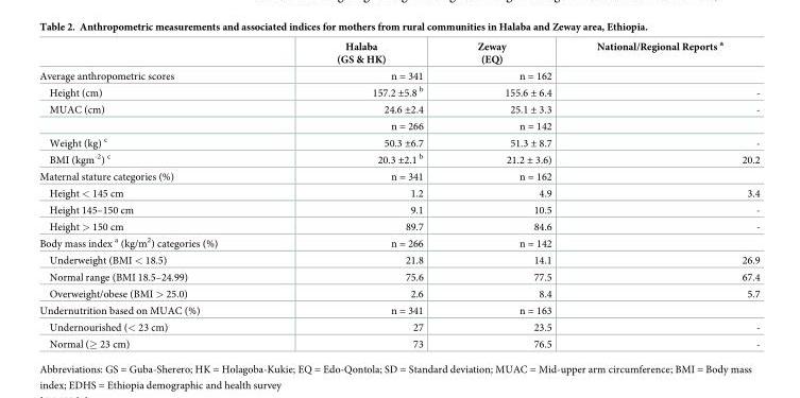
<table><thead><tr><td></td><td>Halaba (GS &amp; HK)</td><td>Zeway (EQ)</td><td>National/Regional Reports <sup>a</sup></td></tr></thead><tbody><tr><td>Average anthropometric scores</td><td>n = 341</td><td>n = 162</td><td></td></tr><tr><td>Height (cm)</td><td>157.2 ±5.8 <sup>b</sup></td><td>155.6 ± 6.4</td><td>-</td></tr><tr><td rowspan="2">MUAC (cm)</td><td>24.6 ±2.4</td><td>25.1 ± 3.3</td><td>-</td></tr><tr><td>n = 266</td><td>n = 142</td><td></td></tr><tr><td>Weight (kg) <sup>c</sup></td><td>50.3 ±6.7</td><td>51.3 ± 8.7</td><td>-</td></tr><tr><td>BMI (kgm<sup>-2</sup>) <sup>c</sup></td><td>20.3 ±2.1 <sup>b</sup></td><td>21.2 ± 3.6)</td><td>20.2</td></tr><tr><td>Maternal stature categories (%)</td><td>n = 341</td><td>n = 162</td><td></td></tr><tr><td>Height &lt; 145 cm</td><td>1.2</td><td>4.9</td><td>3.4</td></tr><tr><td>Height 145–150 cm</td><td>9.1</td><td>10.5</td><td>-</td></tr><tr><td>Height &gt; 150 cm</td><td>89.7</td><td>84.6</td><td>-</td></tr><tr><td>Body mass index <sup>a</sup> (kg/m<sup>2</sup>) categories (%)</td><td>n = 266</td><td>n = 142</td><td></td></tr><tr><td>Underweight (BMI &lt; 18.5)</td><td>21.8</td><td>14.1</td><td>26.9</td></tr><tr><td>Normal range (BMI 18.5–24.99)</td><td>75.6</td><td>77.5</td><td>67.4</td></tr><tr><td>Overweight/obese (BMI &gt; 25.0)</td><td>2.6</td><td>8.4</td><td>5.7</td></tr><tr><td>Undernutrition based on MUAC (%)</td><td>n = 341</td><td>n = 163</td><td></td></tr><tr><td>Undernourished (&lt; 23 cm)</td><td>27</td><td>23.5</td><td>-</td></tr><tr><td>Normal (≥ 23 cm)</td><td>73</td><td>76.5</td><td>-</td></tr></tbody></table>